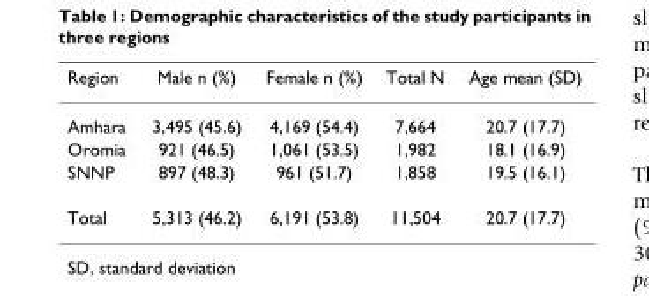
<table><thead><tr><td>Region</td><td>Male n (%)</td><td>Female n (%)</td><td>Total N</td><td>Age mean (SD)</td></tr></thead><tbody><tr><td>Amhara</td><td>3,495 (45.6)</td><td>4,169 (54.4)</td><td>7,664</td><td>20.7 (17.7)</td></tr><tr><td>Oromia</td><td>921 (46.5)</td><td>1,061 (53.5)</td><td>1,982</td><td>18.1 (16.9)</td></tr><tr><td>SNNP</td><td>897 (48.3)</td><td>961 (51.7)</td><td>1,858</td><td>19.5 (16.1)</td></tr><tr><td>Total</td><td>5,313 (46.2)</td><td>6,191 (53.8)</td><td>11,504</td><td>20.7 (17.7)</td></tr></tbody></table>